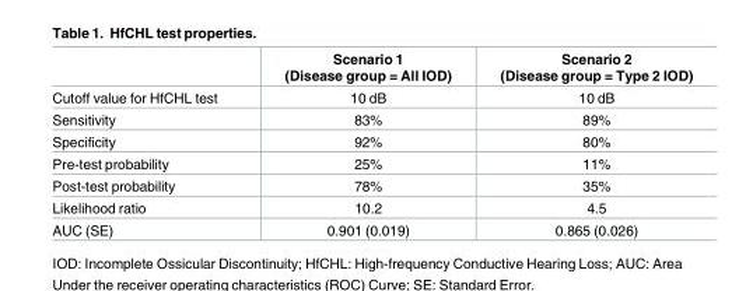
<table><thead><tr><td></td><td>Scenario 1 (Disease group = All IOD)</td><td>Scenario 2 (Disease group = Type 2 IOD)</td></tr></thead><tbody><tr><td>Cutoff value for HfCHL test</td><td>10 dB</td><td>10 dB</td></tr><tr><td>Sensitivity</td><td>83%</td><td>89%</td></tr><tr><td>Specificity</td><td>92%</td><td>80%</td></tr><tr><td>Pre-test probability</td><td>25%</td><td>11%</td></tr><tr><td>Post-test probability</td><td>78%</td><td>35%</td></tr><tr><td>Likelihood ratio</td><td>10.2</td><td>4.5</td></tr><tr><td>AUC (SE)</td><td>0.901 (0.019)</td><td>0.865 (0.026)</td></tr></tbody></table>